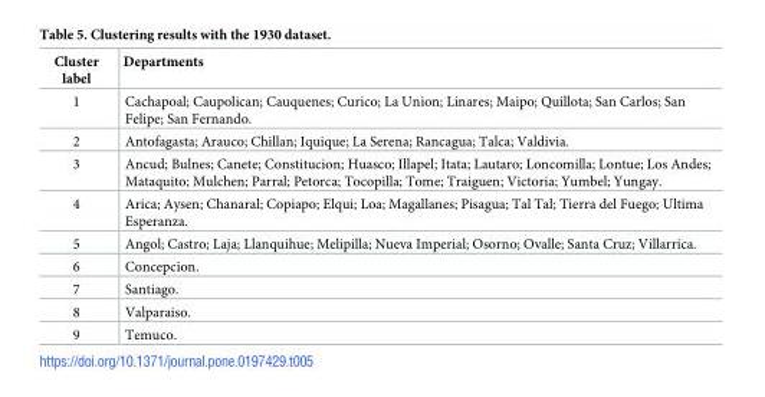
<table><thead><tr><td>Cluster label</td><td>Departments</td></tr></thead><tbody><tr><td>1</td><td>Cachapoal; Caupolican; Cauquenes; Curico; La Union; Linares; Maipo; Quillota; San Carlos; San Felipe; San Fernando.</td></tr><tr><td>2</td><td>Antofagasta; Arauco; Chillan; Iquique; La Serena; Rancagua; Talca; Valdivia.</td></tr><tr><td>3</td><td>Ancud; Bulnes; Canete; Constitucion; Huasco; Illapel; Itata; Lautaro; Loncomilla; Lontue; Los Andes; Mataquito; Mulchen; Parral; Petorca; Tocopilla; Tome; Traiguen; Victoria; Yumbel; Yungay.</td></tr><tr><td>4</td><td>Arica; Aysen; Chanaral; Copiapo; Elqui; Loa; Magallanes; Pisagua; Tal Tal; Tierra del Fuego; Ultima Esperanza.</td></tr><tr><td>5</td><td>Angol; Castro; Laja; Llanquihue; Melipilla; Nueva Imperial; Osorno; Ovalle; Santa Cruz; Villarrica.</td></tr><tr><td>6</td><td>Concepcion.</td></tr><tr><td>7</td><td>Santiago.</td></tr><tr><td>8</td><td>Valparaiso.</td></tr><tr><td>9</td><td>Temuco.</td></tr></tbody></table>